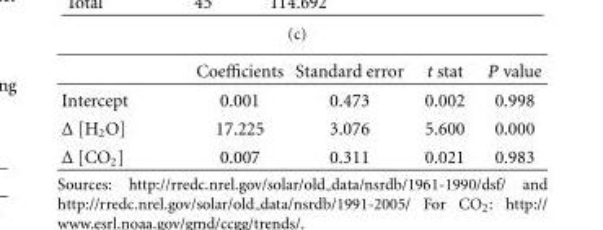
<table><thead><tr><td></td><td>Coefficients</td><td>Standard error</td><td>t stat</td><td>P value</td></tr></thead><tbody><tr><td>Intercept</td><td>0.001</td><td>0.473</td><td>0.002</td><td>0.998</td></tr><tr><td>Δ [H<sub>2</sub>O]</td><td>17.225</td><td>3.076</td><td>5.600</td><td>0.000</td></tr><tr><td>Δ [CO<sub>2</sub>]</td><td>0.007</td><td>0.311</td><td>0.021</td><td>0.983</td></tr></tbody></table>